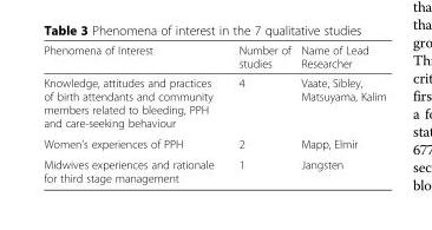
<table><thead><tr><td>Phenomena of Interest</td><td>Number of studies</td><td>Name of Lead Researcher</td></tr></thead><tbody><tr><td>Knowledge, attitudes and practices of birth attendants and community members related to bleeding, PPH and care-seeking behaviour</td><td>4</td><td>Vaate, Sibley, Matsuyama, Kalim</td></tr><tr><td>Women’s experiences of PPH</td><td>2</td><td>Mapp, Elmir</td></tr><tr><td>Midwives experiences and rationale for third stage management</td><td>1</td><td>Jangsten</td></tr></tbody></table>